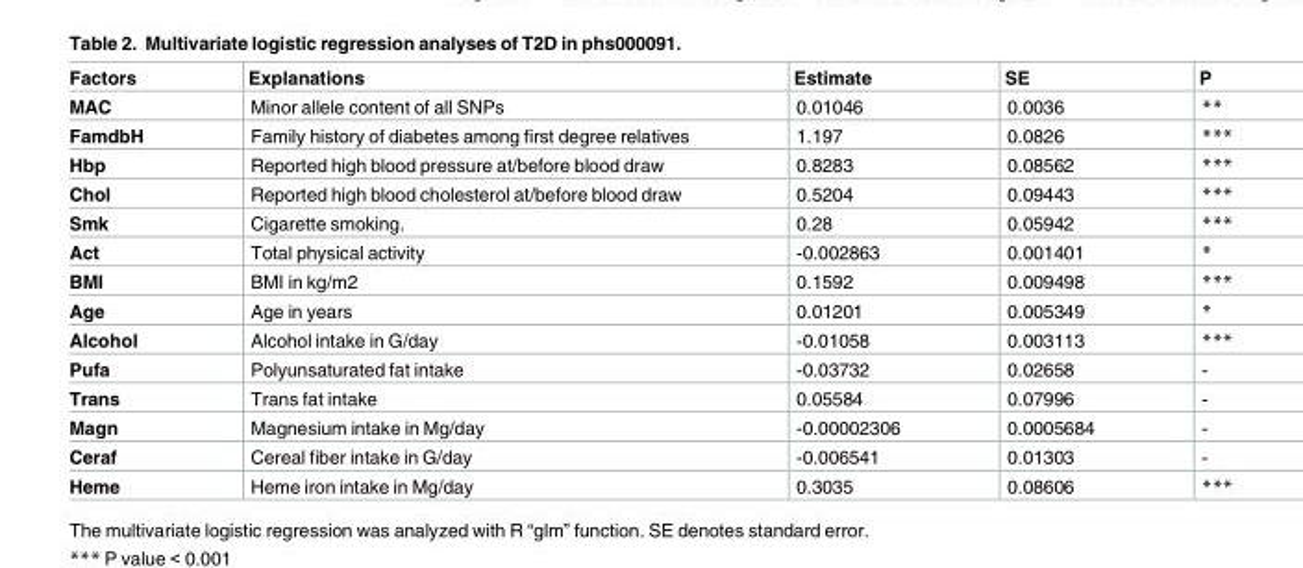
<table><thead><tr><td>Factors</td><td>Explanations</td><td>Estimate</td><td>SE</td><td>P</td></tr></thead><tbody><tr><td>MAC</td><td>Minor allele content of all SNPs</td><td>0.01046</td><td>0.0036</td><td>**</td></tr><tr><td>FamdbH</td><td>Family history of diabetes among first degree relatives</td><td>1.197</td><td>0.0826</td><td>***</td></tr><tr><td>Hbp</td><td>Reported high blood pressure at/before blood draw</td><td>0.8283</td><td>0.08562</td><td>***</td></tr><tr><td>Chol</td><td>Reported high blood cholesterol at/before blood draw</td><td>0.5204</td><td>0.09443</td><td>***</td></tr><tr><td>Smk</td><td>Cigarette smoking.</td><td>0.28</td><td>0.05942</td><td>***</td></tr><tr><td>Act</td><td>Total physical activity</td><td>-0.002863</td><td>0.001401</td><td>*</td></tr><tr><td>BMI</td><td>BMI in kg/m2</td><td>0.1592</td><td>0.009498</td><td>***</td></tr><tr><td>Age</td><td>Age in years</td><td>0.01201</td><td>0.005349</td><td>*</td></tr><tr><td>Alcohol</td><td>Alcohol intake in G/day</td><td>-0.01058</td><td>0.003113</td><td>***</td></tr><tr><td>Pufa</td><td>Polyunsaturated fat intake</td><td>-0.03732</td><td>0.02658</td><td>-</td></tr><tr><td>Trans</td><td>Trans fat intake</td><td>0.05584</td><td>0.07996</td><td>-</td></tr><tr><td>Magn</td><td>Magnesium intake in Mg/day</td><td>-0.00002306</td><td>0.0005684</td><td>-</td></tr><tr><td>Ceraf</td><td>Cereal fiber intake in G/day</td><td>-0.006541</td><td>0.01303</td><td>-</td></tr><tr><td>Heme</td><td>Heme iron intake in Mg/day</td><td>0.3035</td><td>0.08606</td><td>***</td></tr></tbody></table>